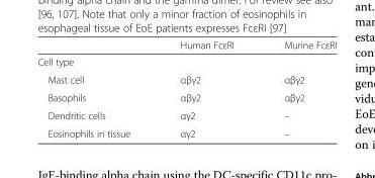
<table><thead><tr><td></td><td>Human FcεRI</td><td>Murine FcεRI</td></tr></thead><tbody><tr><td colspan="3">Cell type</td></tr><tr><td>Mast cell</td><td>αβγ2</td><td>αβγ2</td></tr><tr><td>Basophils</td><td>αβγ2</td><td>αβγ2</td></tr><tr><td>Dendritic cells</td><td>αγ2</td><td>–</td></tr><tr><td>Eosinophils in tissue</td><td>αγ2</td><td>–</td></tr></tbody></table>